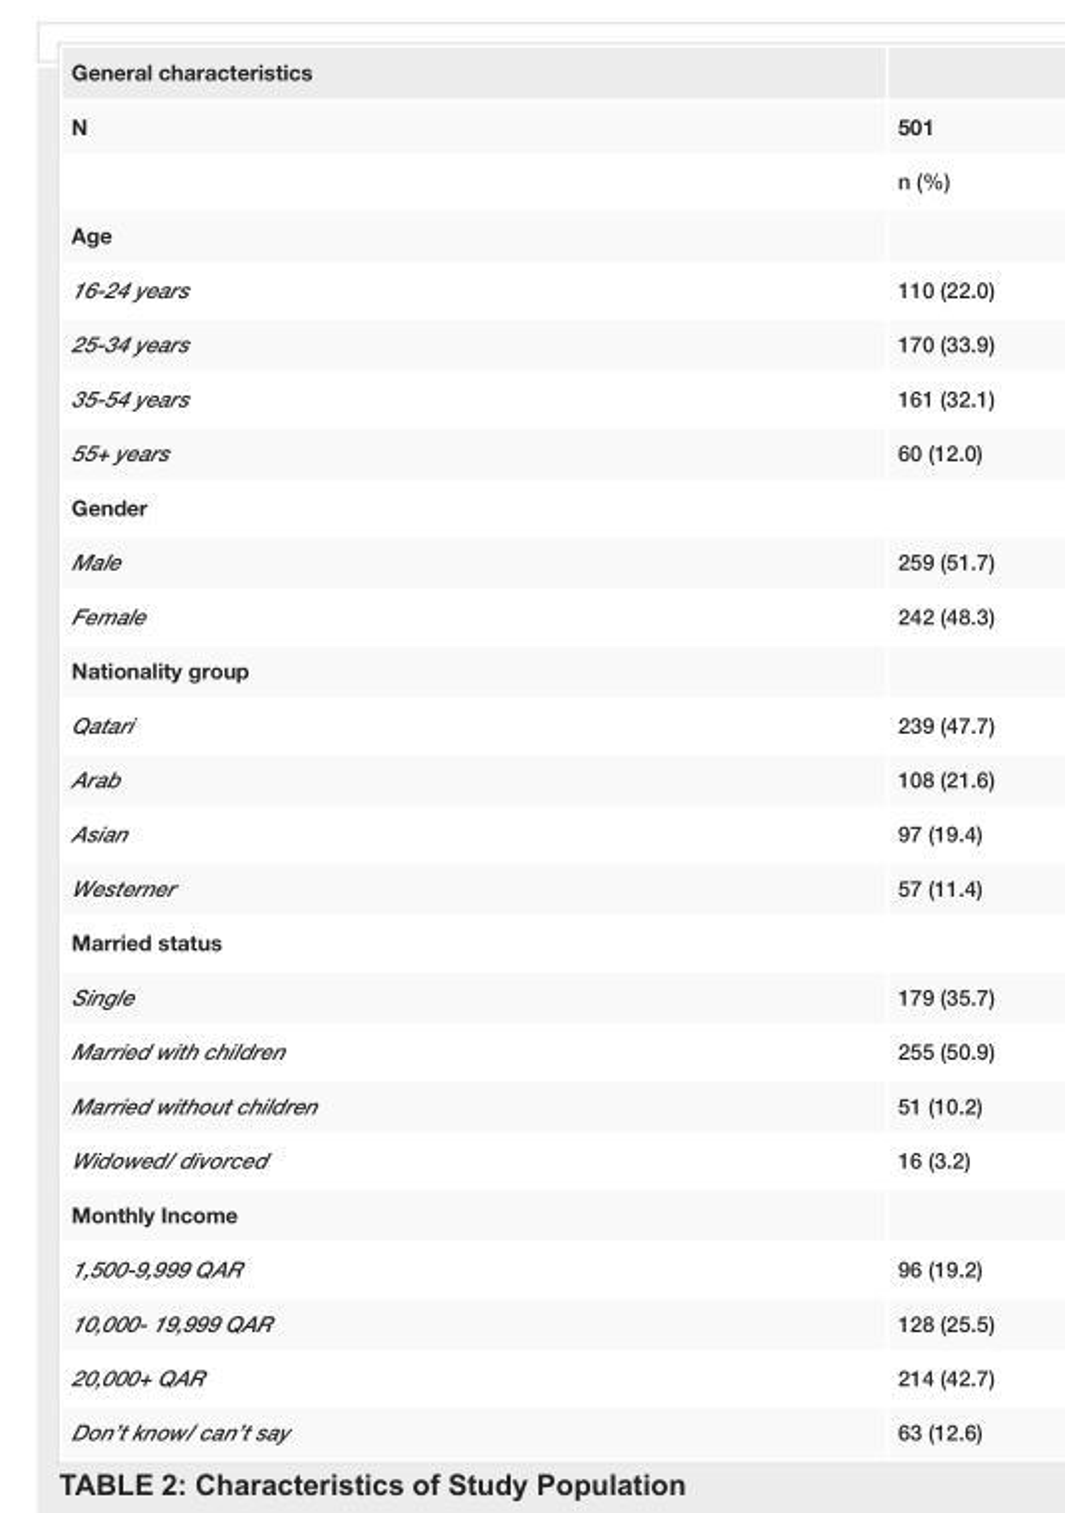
<table><tbody><tr><td colspan="2">General characteristics</td></tr><tr><td rowspan="2">N</td><td>501</td></tr><tr><td>n (%)</td></tr><tr><td colspan="2">Age</td></tr><tr><td>16-24 years</td><td>110 (22.0)</td></tr><tr><td>25-34 years</td><td>170 (33.9)</td></tr><tr><td>35-54 years</td><td>161 (32.1)</td></tr><tr><td>55+ years</td><td>60 (12.0)</td></tr><tr><td colspan="2">Gender</td></tr><tr><td>Male</td><td>259 (51.7)</td></tr><tr><td>Female</td><td>242 (48.3)</td></tr><tr><td colspan="2">Nationality group</td></tr><tr><td>Qatari</td><td>239 (47.7)</td></tr><tr><td>Arab</td><td>108 (21.6)</td></tr><tr><td>Asian</td><td>97 (19.4)</td></tr><tr><td>Westerner</td><td>57 (11.4)</td></tr><tr><td colspan="2">Married status</td></tr><tr><td>Single</td><td>179 (35.7)</td></tr><tr><td>Married with children</td><td>255 (50.9)</td></tr><tr><td>Married without children</td><td>51 (10.2)</td></tr><tr><td>Widowed/ divorced</td><td>16 (3.2)</td></tr><tr><td colspan="2">Monthly Income</td></tr><tr><td>1,500-9,999 QAR</td><td>96 (19.2)</td></tr><tr><td>10,000- 19,999 QAR</td><td>128 (25.5)</td></tr><tr><td>20,000+ QAR</td><td>214 (42.7)</td></tr><tr><td>Don’t know/ can’t say</td><td>63 (12.6)</td></tr></tbody></table>